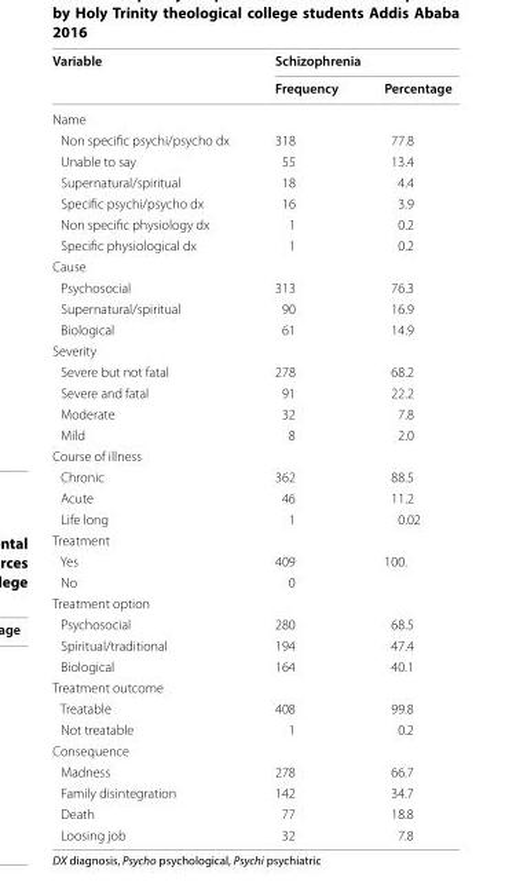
<table><thead><tr><td rowspan="2">Variable</td><td colspan="2">Schizophrenia</td></tr><tr><td>Frequency</td><td>Percentage</td></tr></thead><tbody><tr><td colspan="3">Name</td></tr><tr><td>Non specific psychi/psycho dx</td><td>318</td><td>77.8</td></tr><tr><td>Unable to say</td><td>55</td><td>13.4</td></tr><tr><td>Supernatural/spiritual</td><td>18</td><td>4.4</td></tr><tr><td>Specific psychi/psycho dx</td><td>16</td><td>3.9</td></tr><tr><td>Non specific physiology dx</td><td>1</td><td>0.2</td></tr><tr><td>Specific physiological dx</td><td>1</td><td>0.2</td></tr><tr><td colspan="3">Cause</td></tr><tr><td>Psychosocial</td><td>313</td><td>76.3</td></tr><tr><td>Supernatural/spiritual</td><td>90</td><td>16.9</td></tr><tr><td>Biological</td><td>61</td><td>14.9</td></tr><tr><td colspan="3">Severity</td></tr><tr><td>Severe but not fatal</td><td>278</td><td>68.2</td></tr><tr><td>Severe and fatal</td><td>91</td><td>22.2</td></tr><tr><td>Moderate</td><td>32</td><td>7.8</td></tr><tr><td>Mild</td><td>8</td><td>2.0</td></tr><tr><td colspan="3">Course of illness</td></tr><tr><td>Chronic</td><td>362</td><td>88.5</td></tr><tr><td>Acute</td><td>46</td><td>11.2</td></tr><tr><td>Life long</td><td>1</td><td>0.02</td></tr><tr><td colspan="3">Treatment</td></tr><tr><td>Yes</td><td>409</td><td>100.</td></tr><tr><td>No</td><td>0</td><td></td></tr><tr><td colspan="3">Treatment option</td></tr><tr><td>Psychosocial</td><td>280</td><td>68.5</td></tr><tr><td>Spiritual/traditional</td><td>194</td><td>47.4</td></tr><tr><td>Biological</td><td>164</td><td>40.1</td></tr><tr><td colspan="3">Treatment outcome</td></tr><tr><td>Treatable</td><td>408</td><td>99.8</td></tr><tr><td>Not treatable</td><td>1</td><td>0.2</td></tr><tr><td colspan="3">Consequence</td></tr><tr><td>Madness</td><td>278</td><td>66.7</td></tr><tr><td>Family disintegration</td><td>142</td><td>34.7</td></tr><tr><td>Death</td><td>77</td><td>18.8</td></tr><tr><td>Loosing job</td><td>32</td><td>7.8</td></tr></tbody></table>